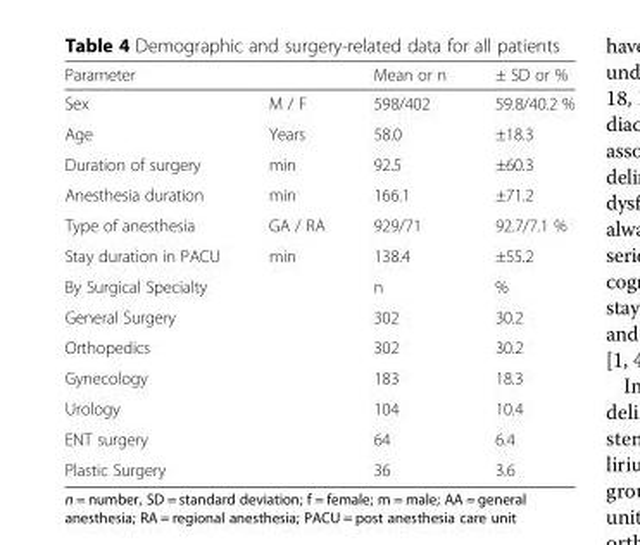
<table><thead><tr><td>Parameter</td><td></td><td>Mean or n</td><td>± SD or %</td></tr></thead><tbody><tr><td>Sex</td><td>M / F</td><td>598/402</td><td>59.8/40.2 %</td></tr><tr><td>Age</td><td>Years</td><td>58.0</td><td>±18.3</td></tr><tr><td>Duration of surgery</td><td>min</td><td>92.5</td><td>±60.3</td></tr><tr><td>Anesthesia duration</td><td>min</td><td>166.1</td><td>±71.2</td></tr><tr><td>Type of anesthesia</td><td>GA / RA</td><td>929/71</td><td>92.7/7.1 %</td></tr><tr><td>Stay duration in PACU</td><td>min</td><td>138.4</td><td>±55.2</td></tr><tr><td>By Surgical Specialty</td><td></td><td>n</td><td>%</td></tr><tr><td>General Surgery</td><td></td><td>302</td><td>30.2</td></tr><tr><td>Orthopedics</td><td></td><td>302</td><td>30.2</td></tr><tr><td>Gynecology</td><td></td><td>183</td><td>18.3</td></tr><tr><td>Urology</td><td></td><td>104</td><td>10.4</td></tr><tr><td>ENT surgery</td><td></td><td>64</td><td>6.4</td></tr><tr><td>Plastic Surgery</td><td></td><td>36</td><td>3.6</td></tr></tbody></table>